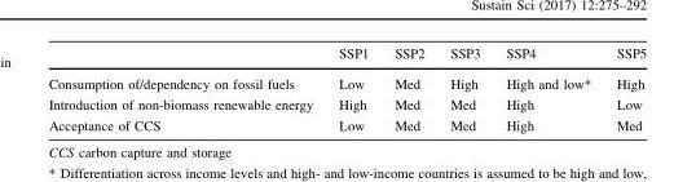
<table><thead><tr><td></td><td>SSP1</td><td>SSP2</td><td>SSP3</td><td>SSP4</td><td>SSP5</td></tr></thead><tbody><tr><td>Consumption of/dependency on fossil fuels</td><td>Low</td><td>Med</td><td>High</td><td>High and low*</td><td>High</td></tr><tr><td>Introduction of non-biomass renewable energy</td><td>High</td><td>Med</td><td>Med</td><td>High</td><td>Low</td></tr><tr><td>Acceptance of CCS</td><td>Low</td><td>Med</td><td>Med</td><td>High</td><td>Med</td></tr></tbody></table>